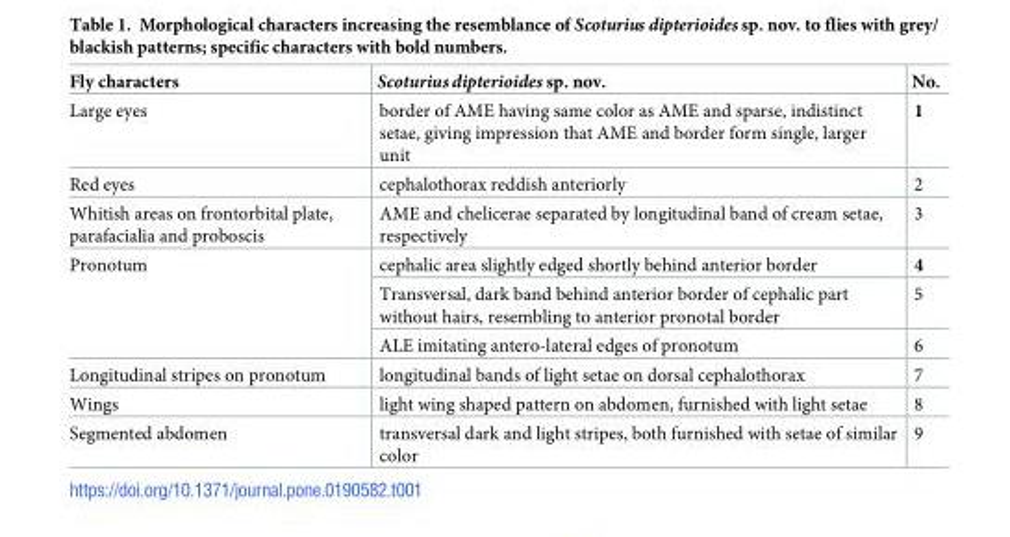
<table><thead><tr><td>Fly characters</td><td>Scoturiusdipterioides sp. nov.</td><td>No.</td></tr></thead><tbody><tr><td>Large eyes</td><td>border of AME having same color as AME and sparse, indistinct setae, giving impression that AME and border form single, larger unit</td><td>1</td></tr><tr><td>Red eyes</td><td>cephalothorax reddish anteriorly</td><td>2</td></tr><tr><td>Whitish areas on frontorbital plate, parafacialia and proboscis</td><td>AME and chelicerae separated by longitudinal band of cream setae, respectively</td><td>3</td></tr><tr><td rowspan="3">Pronotum</td><td>cephalic area slightly edged shortly behind anterior border</td><td>4</td></tr><tr><td>Transversal, dark band behind anterior border of cephalic part without hairs, resembling to anterior pronotal border</td><td>5</td></tr><tr><td>ALE imitating antero-lateral edges of pronotum</td><td>6</td></tr><tr><td>Longitudinal stripes on pronotum</td><td>longitudinal bands of light setae on dorsal cephalothorax</td><td>7</td></tr><tr><td>Wings</td><td>light wing shaped pattern on abdomen, furnished with light setae</td><td>8</td></tr><tr><td>Segmented abdomen</td><td>transversal dark and light stripes, both furnished with setae of similar color</td><td>9</td></tr></tbody></table>